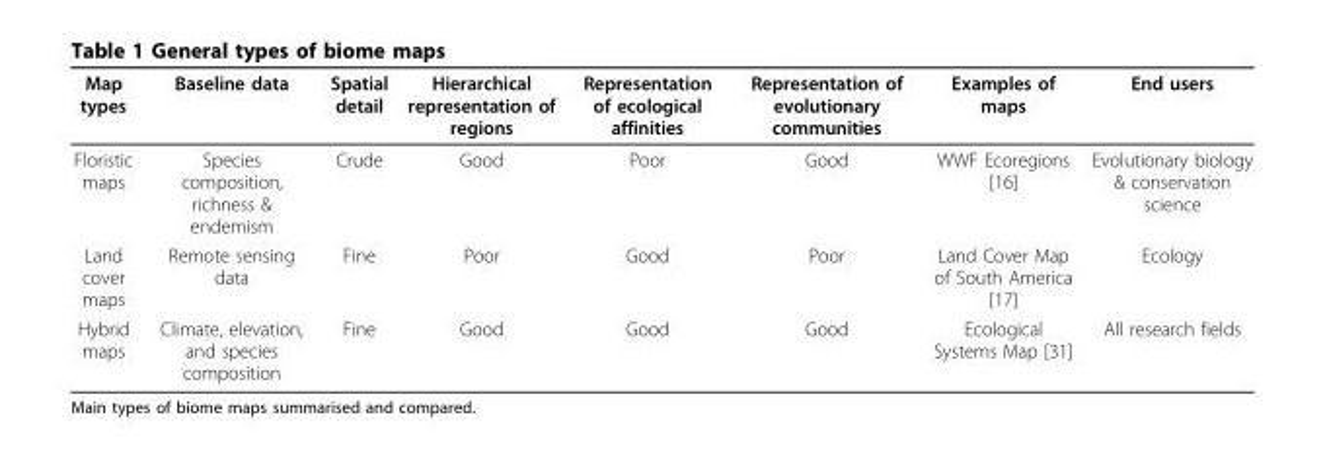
<table><thead><tr><td>Map types</td><td>Baseline data</td><td>Spatial detail</td><td>Hierarchical representation of regions</td><td>Representation of ecological affinities</td><td>Representation of evolutionary communities</td><td>Examples of maps</td><td>End users</td></tr></thead><tbody><tr><td>Floristic maps</td><td>Species composition, richness &amp; endemism</td><td>Crude</td><td>Good</td><td>Poor</td><td>Good</td><td>WWF Ecoregions [16]</td><td>Evolutionary biology &amp; conservation science</td></tr><tr><td>Land cover maps</td><td>Remote sensing data</td><td>Fine</td><td>Poor</td><td>Good</td><td>Poor</td><td>Land Cover Map of South America [17]</td><td>Ecology</td></tr><tr><td>Hybrid maps</td><td>Climate, elevation, and species composition</td><td>Fine</td><td>Good</td><td>Good</td><td>Good</td><td>Ecological Systems Map [31]</td><td>All research fields</td></tr></tbody></table>